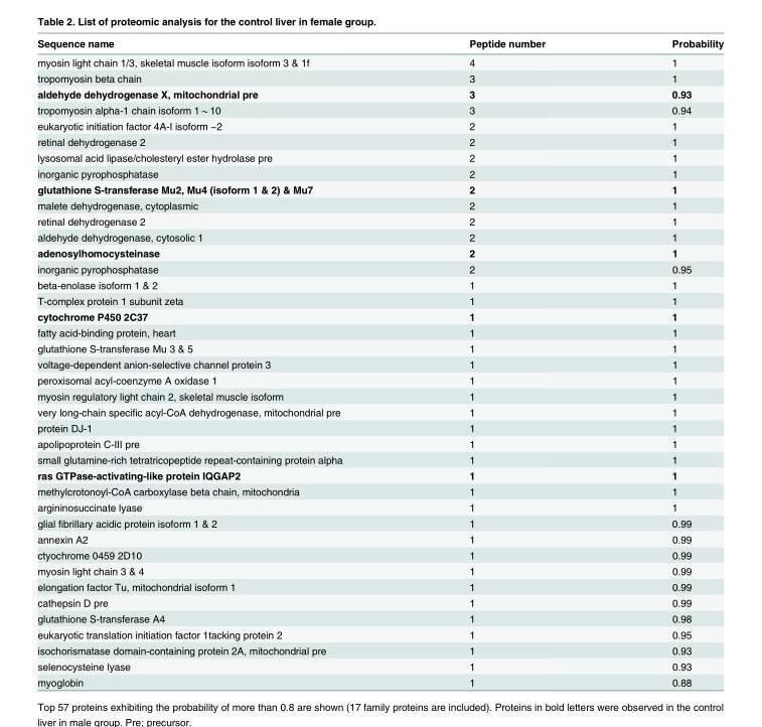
<table><thead><tr><td>Sequence name</td><td>Peptide number</td><td>Probability</td></tr></thead><tbody><tr><td>myosin light chain 1/3, skeletal muscle isoform isoform 3 &amp; 1f</td><td>4</td><td>1</td></tr><tr><td>tropomyosin beta chain</td><td>3</td><td>1</td></tr><tr><td>aldehyde dehydrogenase X, mitochondrial pre</td><td>3</td><td>0.93</td></tr><tr><td>tropomyosin alpha-1 chain isoform 1*10</td><td>3</td><td>0.94</td></tr><tr><td>eukaryotic initiation factor 4A-I isoform −2</td><td>2</td><td>1</td></tr><tr><td>retinal dehydrogenase 2</td><td>2</td><td>1</td></tr><tr><td>lysosomal acid lipase/cholesteryl ester hydrolase pre</td><td>2</td><td>1</td></tr><tr><td>inorganic pyrophosphatase</td><td>2</td><td>1</td></tr><tr><td>glutathione S-transferase Mu2, Mu4 (isoform 1 &amp; 2) &amp; Mu7</td><td>2</td><td>1</td></tr><tr><td>malete dehydrogenase, cytoplasmic</td><td>2</td><td>1</td></tr><tr><td>retinal dehydrogenase 2</td><td>2</td><td>1</td></tr><tr><td>aldehyde dehydrogenase, cytosolic 1</td><td>2</td><td>1</td></tr><tr><td>adenosylhomocysteinase</td><td>2</td><td>1</td></tr><tr><td>inorganic pyrophosphatase</td><td>2</td><td>0.95</td></tr><tr><td>beta-enolase isoform 1 &amp; 2</td><td>1</td><td>1</td></tr><tr><td>T-complex protein 1 subunit zeta</td><td>1</td><td>1</td></tr><tr><td>cytochrome P450 2C37</td><td>1</td><td>1</td></tr><tr><td>fatty acid-binding protein, heart</td><td>1</td><td>1</td></tr><tr><td>glutathione S-transferase Mu 3 &amp; 5</td><td>1</td><td>1</td></tr><tr><td>voltage-dependent anion-selective channel protein 3</td><td>1</td><td>1</td></tr><tr><td>peroxisomal acyl-coenzyme A oxidase 1</td><td>1</td><td>1</td></tr><tr><td>myosin regulatory light chain 2, skeletal muscle isoform</td><td>1</td><td>1</td></tr><tr><td>very long-chain specific acyl-CoA dehydrogenase, mitochondrial pre</td><td>1</td><td>1</td></tr><tr><td>protein DJ-1</td><td>1</td><td>1</td></tr><tr><td>apolipoprotein C-III pre</td><td>1</td><td>1</td></tr><tr><td>small glutamine-rich tetratricopeptide repeat-containing protein alpha</td><td>1</td><td>1</td></tr><tr><td>ras GTPase-activating-like protein IQGAP2</td><td>1</td><td>1</td></tr><tr><td>methylcrotonoyl-CoA carboxylase beta chain, mitochondria</td><td>1</td><td>1</td></tr><tr><td>argininosuccinate lyase</td><td>1</td><td>1</td></tr><tr><td>glial fibrillary acidic protein isoform 1 &amp; 2</td><td>1</td><td>0.99</td></tr><tr><td>annexin A2</td><td>1</td><td>0.99</td></tr><tr><td>ctyochrome 0459 2D10</td><td>1</td><td>0.99</td></tr><tr><td>myosin light chain 3 &amp; 4</td><td>1</td><td>0.99</td></tr><tr><td>elongation factor Tu, mitochondrial isoform 1</td><td>1</td><td>0.99</td></tr><tr><td>cathepsin D pre</td><td>1</td><td>0.99</td></tr><tr><td>glutathione S-transferase A4</td><td>1</td><td>0.98</td></tr><tr><td>eukaryotic translation initiation factor 1tacking protein 2</td><td>1</td><td>0.95</td></tr><tr><td>isochorismatase domain-containing protein 2A, mitochondrial pre</td><td>1</td><td>0.93</td></tr><tr><td>selenocysteine lyase</td><td>1</td><td>0.93</td></tr><tr><td>myoglobin</td><td>1</td><td>0.88</td></tr></tbody></table>